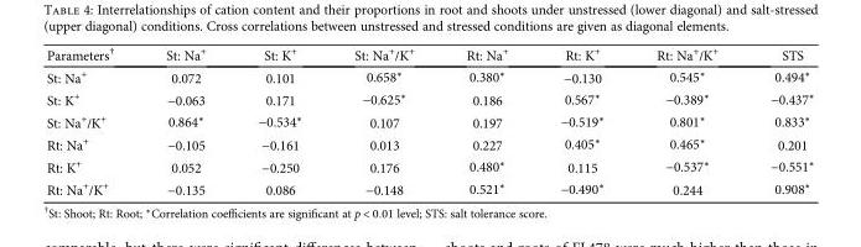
<table><thead><tr><td>Parameters<sup>†</sup></td><td>St: Na<sup>+</sup></td><td>St: K<sup>+</sup></td><td>St: Na<sup>+</sup>/K<sup>+</sup></td><td>Rt: Na<sup>+</sup></td><td>Rt: K<sup>+</sup></td><td>Rt: Na<sup>+</sup>/K<sup>+</sup></td><td>STS</td></tr></thead><tbody><tr><td>St: Na<sup>+</sup></td><td>0.072</td><td>0.101</td><td>0.658∗</td><td>0.380∗</td><td>−0.130</td><td>0.545∗</td><td>0.494∗</td></tr><tr><td>St: K<sup>+</sup></td><td>−0.063</td><td>0.171</td><td>−0.625∗</td><td>0.186</td><td>0.567∗</td><td>−0.389∗</td><td>−0.437∗</td></tr><tr><td>St: Na<sup>+</sup>/K<sup>+</sup></td><td>0.864∗</td><td>−0.534∗</td><td>0.107</td><td>0.197</td><td>−0.519∗</td><td>0.801∗</td><td>0.833∗</td></tr><tr><td>Rt: Na<sup>+</sup></td><td>−0.105</td><td>−0.161</td><td>0.013</td><td>0.227</td><td>0.405∗</td><td>0.465∗</td><td>0.201</td></tr><tr><td>Rt: K<sup>+</sup></td><td>0.052</td><td>−0.250</td><td>0.176</td><td>0.480∗</td><td>0.115</td><td>−0.537∗</td><td>−0.551∗</td></tr><tr><td>Rt: Na<sup>+</sup>/K<sup>+</sup></td><td>−0.135</td><td>0.086</td><td>−0.148</td><td>0.521∗</td><td>−0.490∗</td><td>0.244</td><td>0.908∗</td></tr></tbody></table>